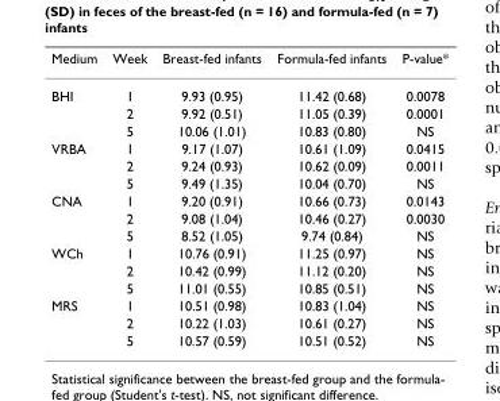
<table><thead><tr><td>Medium</td><td>Week</td><td>Breast-fed infants</td><td>Formula-fed infants</td><td>P-value*</td></tr></thead><tbody><tr><td rowspan="3">BHI</td><td>1</td><td>9.93 (0.95)</td><td>11.42 (0.68)</td><td>0.0078</td></tr><tr><td>2</td><td>9.92 (0.51)</td><td>11.05 (0.39)</td><td>0.0001</td></tr><tr><td>5</td><td>10.06 (1.01)</td><td>10.83 (0.80)</td><td>NS</td></tr><tr><td rowspan="3">VRBA</td><td>1</td><td>9.17 (1.07)</td><td>10.61 (1.09)</td><td>0.0415</td></tr><tr><td>2</td><td>9.24 (0.93)</td><td>10.62 (0.09)</td><td>0.0011</td></tr><tr><td>5</td><td>9.49 (1.35)</td><td>10.04 (0.70)</td><td>NS</td></tr><tr><td rowspan="3">CNA</td><td>1</td><td>9.20 (0.91)</td><td>10.66 (0.73)</td><td>0.0143</td></tr><tr><td>2</td><td>9.08 (1.04)</td><td>10.46 (0.27)</td><td>0.0030</td></tr><tr><td>5</td><td>8.52 (1.05)</td><td>9.74 (0.84)</td><td>NS</td></tr><tr><td rowspan="3">WCh</td><td>1</td><td>10.76 (0.91)</td><td>11.25 (0.97)</td><td>NS</td></tr><tr><td>2</td><td>10.42 (0.99)</td><td>11.12 (0.20)</td><td>NS</td></tr><tr><td>5</td><td>11.01 (0.55)</td><td>10.85 (0.51)</td><td>NS</td></tr><tr><td rowspan="3">MRS</td><td>1</td><td>10.51 (0.98)</td><td>10.83 (1.04)</td><td>NS</td></tr><tr><td>2</td><td>10.22 (1.03)</td><td>10.61 (0.27)</td><td>NS</td></tr><tr><td>5</td><td>10.57 (0.59)</td><td>10.51 (0.52)</td><td>NS</td></tr></tbody></table>